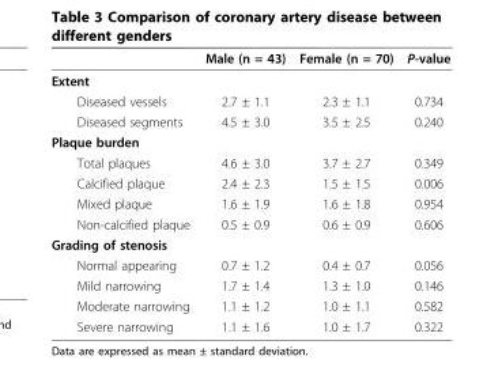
<table><thead><tr><td></td><td>Male (n = 43)</td><td>Female (n = 70)</td><td>P-value</td></tr></thead><tbody><tr><td colspan="4">Extent</td></tr><tr><td>Diseased vessels</td><td>2.7 ± 1.1</td><td>2.3 ± 1.1</td><td>0.734</td></tr><tr><td>Diseased segments</td><td>4.5 ± 3.0</td><td>3.5 ± 2.5</td><td>0.240</td></tr><tr><td colspan="4">Plaque burden</td></tr><tr><td>Total plaques</td><td>4.6 ± 3.0</td><td>3.7 ± 2.7</td><td>0.349</td></tr><tr><td>Calcified plaque</td><td>2.4 ± 2.3</td><td>1.5 ± 1.5</td><td>0.006</td></tr><tr><td>Mixed plaque</td><td>1.6 ± 1.9</td><td>1.6 ± 1.8</td><td>0.954</td></tr><tr><td>Non-calcified plaque</td><td>0.5 ± 0.9</td><td>0.6 ± 0.9</td><td>0.606</td></tr><tr><td colspan="4">Grading of stenosis</td></tr><tr><td>Normal appearing</td><td>0.7 ± 1.2</td><td>0.4 ± 0.7</td><td>0.056</td></tr><tr><td>Mild narrowing</td><td>1.7 ± 1.4</td><td>1.3 ± 1.0</td><td>0.146</td></tr><tr><td>Moderate narrowing</td><td>1.1 ± 1.2</td><td>1.0 ± 1.1</td><td>0.582</td></tr><tr><td>Severe narrowing</td><td>1.1 ± 1.6</td><td>1.0 ± 1.7</td><td>0.322</td></tr></tbody></table>